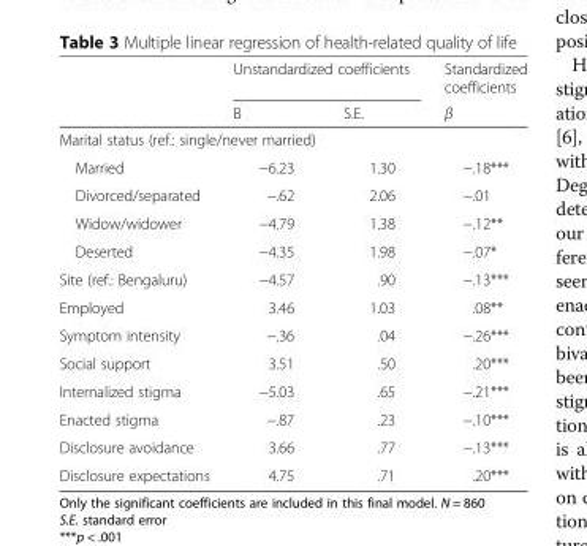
<table><thead><tr><td rowspan="2"></td><td colspan="2">Unstandardized coefficients</td><td rowspan="2">Standardized coefficients β</td></tr><tr><td>B</td><td>S.E.</td></tr></thead><tbody><tr><td colspan="4">Marital status (ref.: single/never married)</td></tr><tr><td>Married</td><td>−6.23</td><td>1.30</td><td>−.18***</td></tr><tr><td>Divorced/separated</td><td>−.62</td><td>2.06</td><td>−.01</td></tr><tr><td>Widow/widower</td><td>−4.79</td><td>1.38</td><td>−.12**</td></tr><tr><td>Deserted</td><td>−4.35</td><td>1.98</td><td>−.07*</td></tr><tr><td>Site (ref.: Bengaluru)</td><td>−4.57</td><td>.90</td><td>−.13***</td></tr><tr><td>Employed</td><td>3.46</td><td>1.03</td><td>.08**</td></tr><tr><td>Symptom intensity</td><td>−.36</td><td>.04</td><td>−.26***</td></tr><tr><td>Social support</td><td>3.51</td><td>.50</td><td>.20***</td></tr><tr><td>Internalized stigma</td><td>−5.03</td><td>.65</td><td>−.21***</td></tr><tr><td>Enacted stigma</td><td>−.87</td><td>.23</td><td>−.10***</td></tr><tr><td>Disclosure avoidance</td><td>3.66</td><td>.77</td><td>−.13***</td></tr><tr><td>Disclosure expectations</td><td>4.75</td><td>.71</td><td>.20***</td></tr></tbody></table>